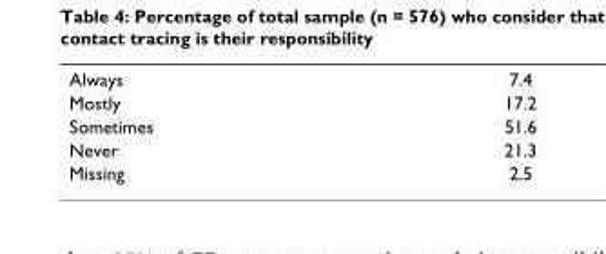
<table><tbody><tr><td>Always</td><td>7.4</td></tr><tr><td>Mostly</td><td>17.2</td></tr><tr><td>Sometimes</td><td>51.6</td></tr><tr><td>Never</td><td>21.3</td></tr><tr><td>Missing</td><td>2.5</td></tr></tbody></table>